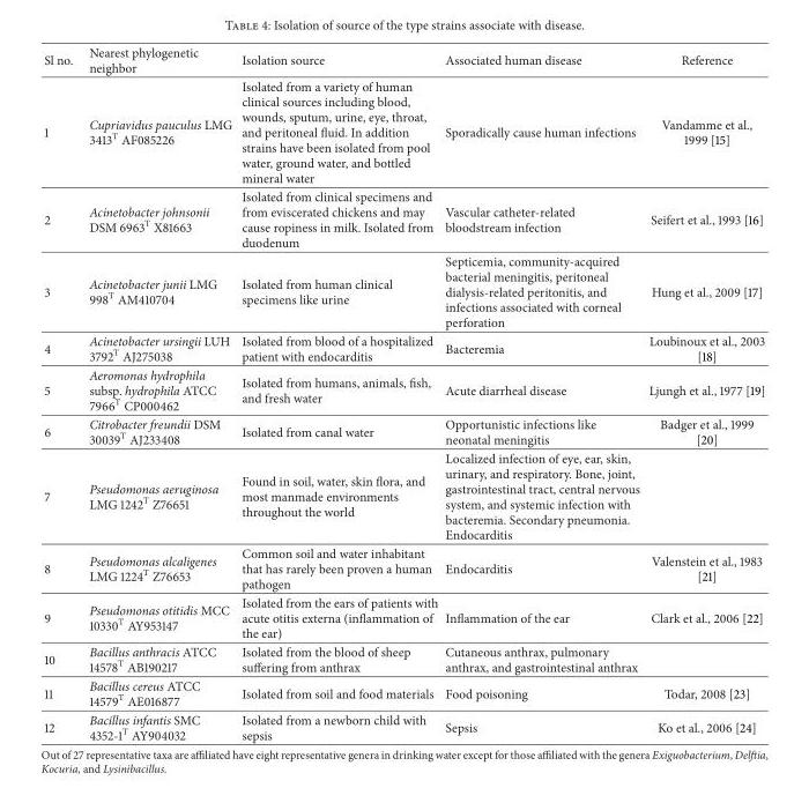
<table><thead><tr><td>Sl no.</td><td>Nearest phylogenetic neighbor</td><td>Isolation source</td><td>Associated human disease</td><td>Reference</td></tr></thead><tbody><tr><td>1</td><td>Cupriavidus pauculus LMG 3413T AF085226</td><td>Isolated from a variety of human clinical sources including blood, wounds, sputum, urine, eye, throat, and peritoneal fluid. In addition strains have been isolated from pool water, ground water, and bottled mineral water</td><td>Sporadically cause human infections</td><td>Vandamme et al., 1999 [15]</td></tr><tr><td>2</td><td>Acinetobacter johnsonii DSM 6963T X81663</td><td>Isolated from clinical specimens and from eviscerated chickens and may cause ropiness in milk. Isolated from duodenum</td><td>Vascular catheter-related bloodstream infection</td><td>Seifert et al., 1993 [16]</td></tr><tr><td>3</td><td>Acinetobacter junii LMG 998T AM410704</td><td>Isolated from human clinical specimens like urine</td><td>Septicemia, community-acquired bacterial meningitis, peritoneal dialysis-related peritonitis, and infections associated with corneal perforation</td><td>Hung et al., 2009 [17]</td></tr><tr><td>4</td><td>Acinetobacter ursingii LUH 3792T AJ275038</td><td>Isolated from blood of a hospitalized patient with endocarditis</td><td>Bacteremia</td><td>Loubinoux et al., 2003 [18]</td></tr><tr><td>5</td><td>Aeromonas hydrophila subsp. hydrophila ATCC 7966T CP000462</td><td>Isolated from humans, animals, fish, and fresh water</td><td>Acute diarrheal disease</td><td>Ljungh et al., 1977 [19]</td></tr><tr><td>6</td><td>Citrobacter freundii DSM 30039T AJ233408</td><td>Isolated from canal water</td><td>Opportunistic infections like neonatal meningitis</td><td>Badger et al., 1999 [20]</td></tr><tr><td>7</td><td>Pseudomonas aeruginosa LMG 1242T Z76651</td><td>Found in soil, water, skin flora, and most manmade environments throughout the world</td><td>Localized infection of eye, ear, skin, urinary, and respiratory. Bone, joint, gastrointestinal tract, central nervous system, and systemic infection with bacteremia. Secondary pneumonia. Endocarditis</td><td></td></tr><tr><td>8</td><td>Pseudomonas alcaligenes LMG 1224T Z76653</td><td>Common soil and water inhabitant that has rarely been proven a human pathogen</td><td>Endocarditis</td><td>Valenstein et al., 1983 [21]</td></tr><tr><td>9</td><td>Pseudomonas otitidis MCC 10330T AY953147</td><td>Isolated from the ears of patients with acute otitis externa (inflammation of the ear)</td><td>Inflammation of the ear</td><td>Clark et al., 2006 [22]</td></tr><tr><td>10</td><td>Bacillus anthracis ATCC 14578T AB190217</td><td>Isolated from the blood of sheep suffering from anthrax</td><td>Cutaneous anthrax, pulmonary anthrax, and gastrointestinal anthrax</td><td></td></tr><tr><td>11</td><td>Bacillus cereus ATCC 14579T AE016877</td><td>Isolated from soil and food materials</td><td>Food poisoning</td><td>Todar, 2008 [23]</td></tr><tr><td>12</td><td>Bacillus infantis SMC 4352-1T AY904032</td><td>Isolated from a newborn child with sepsis</td><td>Sepsis</td><td>Ko et al., 2006 [24]</td></tr></tbody></table>